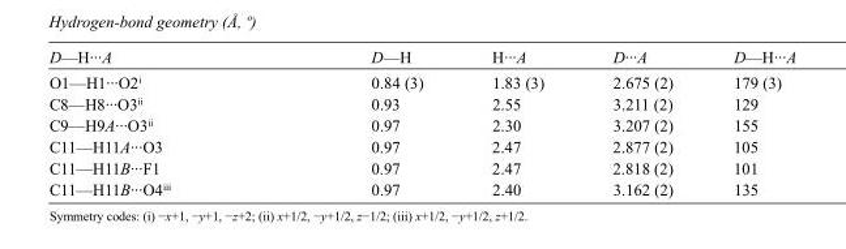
<table><tbody><tr><td>D—H···A</td><td>D—H</td><td>H···A</td><td>D···A</td><td>D—H···A</td></tr><tr><td>O1—H1···O2<sup>i</sup></td><td>0.84 (3)</td><td>1.83 (3)</td><td>2.675 (2)</td><td>179 (3)</td></tr><tr><td>C8—H8···O3<sup>ii</sup></td><td>0.93</td><td>2.55</td><td>3.211 (2)</td><td>129</td></tr><tr><td>C9—H9A···O3<sup>ii</sup></td><td>0.97</td><td>2.30</td><td>3.207 (2)</td><td>155</td></tr><tr><td>C11—H11A···O3</td><td>0.97</td><td>2.47</td><td>2.877 (2)</td><td>105</td></tr><tr><td>C11—H11B···F1</td><td>0.97</td><td>2.47</td><td>2.818 (2)</td><td>101</td></tr><tr><td>C11—H11B···O4<sup>iii</sup></td><td>0.97</td><td>2.40</td><td>3.162 (2)</td><td>135</td></tr></tbody></table>